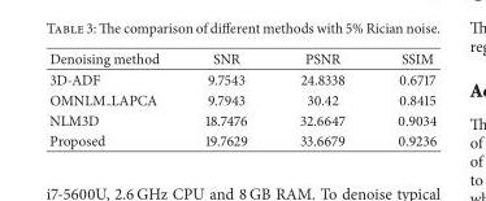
<table><thead><tr><td>Denoising method</td><td>SNR</td><td>PSNR</td><td>SSIM</td></tr></thead><tbody><tr><td>3D-ADF</td><td>9.7543</td><td>24.8338</td><td>0.6717</td></tr><tr><td>OMNLM LAPCA</td><td>9.7943</td><td>30.42</td><td>0.8415</td></tr><tr><td>NLM3D</td><td>18.7476</td><td>32.6647</td><td>0.9034</td></tr><tr><td>Proposed</td><td>19.7629</td><td>33.6679</td><td>0.9236</td></tr></tbody></table>